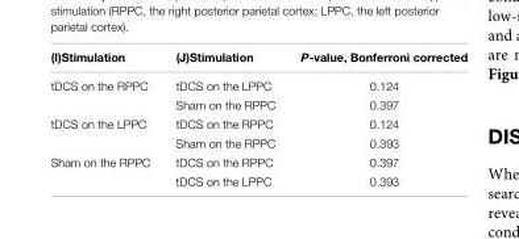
<table><thead><tr><td>(I)Stimulation</td><td>(J)Stimulation</td><td>P-value, Bonferroni corrected</td></tr></thead><tbody><tr><td rowspan="2">tDCS on the RPPC</td><td>tDCS on the LPPC</td><td>0.124</td></tr><tr><td>Sham on the RPPC</td><td>0.397</td></tr><tr><td rowspan="2">tDCS on the LPPC</td><td>tDCS on the RPPC</td><td>0.124</td></tr><tr><td>Sham on the RPPC</td><td>0.393</td></tr><tr><td rowspan="2">Sham on the RPPC</td><td>tDCS on the RPPC</td><td>0.397</td></tr><tr><td>tDCS on the LPPC</td><td>0.393</td></tr></tbody></table>